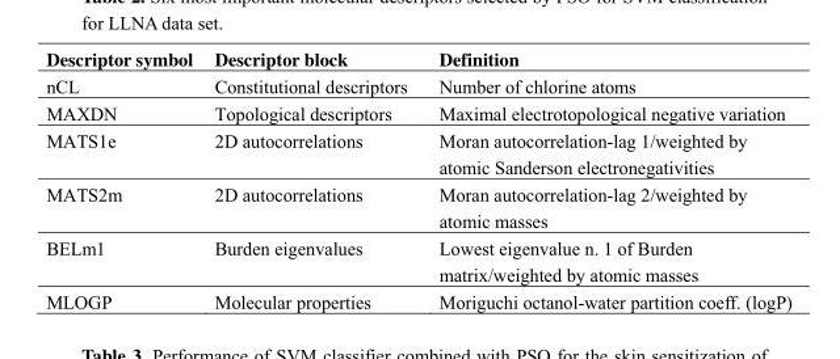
<table><thead><tr><td>Descriptor symbol</td><td>Descriptor block</td><td>Definition</td></tr></thead><tbody><tr><td>nCL</td><td>Constitutional descriptors</td><td>Number of chlorine atoms</td></tr><tr><td>MAXDN</td><td>Topological descriptors</td><td>Maximal electrotopological negative variation</td></tr><tr><td>MATS1e</td><td>2D autocorrelations</td><td>Moran autocorrelation-lag 1/weighted by atomic Sanderson electronegativities</td></tr><tr><td>MATS2m</td><td>2D autocorrelations</td><td>Moran autocorrelation-lag 2/weighted by atomic masses</td></tr><tr><td>BELm1</td><td>Burden eigenvalues</td><td>Lowest eigenvalue n. 1 of Burden matrix/weighted by atomic masses</td></tr><tr><td>MLOGP</td><td>Molecular properties</td><td>Moriguchi octanol-water partition coeff. (logP)</td></tr></tbody></table>